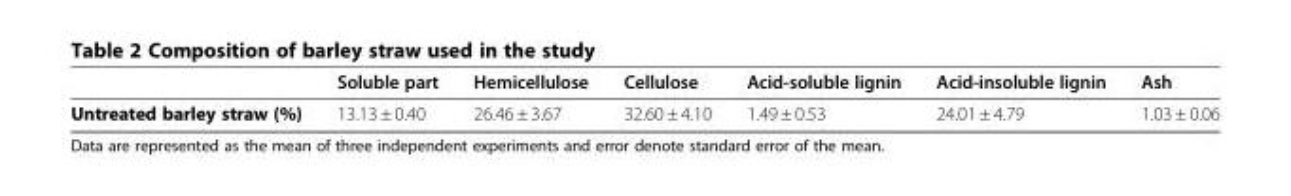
<table><thead><tr><td></td><td>Soluble part</td><td>Hemicellulose</td><td>Cellulose</td><td>Acid-soluble lignin</td><td>Acid-insoluble lignin</td><td>Ash</td></tr></thead><tbody><tr><td>Untreated barley straw (%)</td><td>13.13 ± 0.40</td><td>26.46 ± 3.67</td><td>32.60 ± 4.10</td><td>1.49 ± 0.53</td><td>24.01 ± 4.79</td><td>1.03 ± 0.06</td></tr></tbody></table>